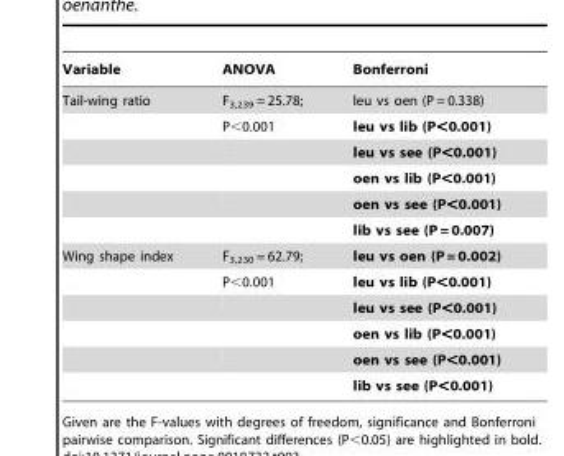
<table><thead><tr><td>Variable</td><td>ANOVA</td><td>Bonferroni</td></tr></thead><tbody><tr><td rowspan="6">Tail-wing ratio</td><td>F<sub>3,239</sub> = 25.78;</td><td>leu vs oen (P = 0.338)</td></tr><tr><td>P&lt;0.001</td><td>leu vs lib (P&lt;0.001)</td></tr><tr><td></td><td>leu vs see (P&lt;0.001)</td></tr><tr><td></td><td>oen vs lib (P&lt;0.001)</td></tr><tr><td></td><td>oen vs see (P&lt;0.001)</td></tr><tr><td></td><td>lib vs see (P = 0.007)</td></tr><tr><td rowspan="6">Wing shape index</td><td>F<sub>3,230</sub> = 62.79;</td><td>leu vs oen (P = 0.002)</td></tr><tr><td>P&lt;0.001</td><td>leu vs lib (P&lt;0.001)</td></tr><tr><td></td><td>leu vs see (P&lt;0.001)</td></tr><tr><td></td><td>oen vs lib (P&lt;0.001)</td></tr><tr><td></td><td>oen vs see (P&lt;0.001)</td></tr><tr><td></td><td>lib vs see (P&lt;0.001)</td></tr></tbody></table>